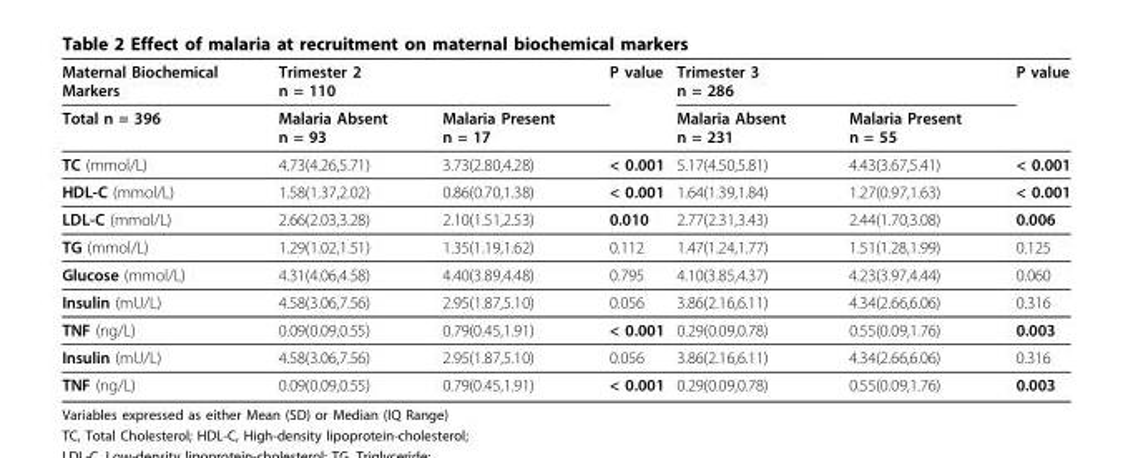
<table><thead><tr><td rowspan="2">Maternal Biochemical Markers Total n = 396</td><td colspan="2">Trimester 2 n = 110</td><td rowspan="2">P value</td><td colspan="2">Trimester 3 n = 286</td><td rowspan="2">P value</td></tr><tr><td>Malaria Absent n = 93</td><td>Malaria Present n = 17</td><td>Malaria Absent n = 231</td><td>Malaria Present n = 55</td></tr></thead><tbody><tr><td>TC (mmol/L)</td><td>4.73(4.26,5.71)</td><td>3.73(2.80,4.28)</td><td>&lt; 0.001</td><td>5.17(4.50,5.81)</td><td>4.43(3.67,5.41)</td><td>&lt; 0.001</td></tr><tr><td>HDL-C (mmol/L)</td><td>1.58(1.37,2.02)</td><td>0.86(0.70,1.38)</td><td>&lt; 0.001</td><td>1.64(1.39,1.84)</td><td>1.27(0.97,1.63)</td><td>&lt; 0.001</td></tr><tr><td>LDL-C (mmol/L)</td><td>2.66(2.03,3.28)</td><td>2.10(1.51,2.53)</td><td>0.010</td><td>2.77(2.31,3.43)</td><td>2.44(1.70,3.08)</td><td>0.006</td></tr><tr><td>TG (mmol/L)</td><td>1.29(1.02,1.51)</td><td>1.35(1.19,1.62)</td><td>0.112</td><td>1.47(1.24,1.77)</td><td>1.51(1.28,1.99)</td><td>0.125</td></tr><tr><td>Glucose (mmol/L)</td><td>4.31(4.06,4.58)</td><td>4.40(3.89,4.48)</td><td>0.795</td><td>4.10(3.85,4.37)</td><td>4.23(3.97,4.44)</td><td>0.060</td></tr><tr><td>Insulin (mU/L)</td><td>4.58(3.06,7.56)</td><td>2.95(1.87,5.10)</td><td>0.056</td><td>3.86(2.16,6.11)</td><td>4.34(2.66,6.06)</td><td>0.316</td></tr><tr><td>TNF (ng/L)</td><td>0.09(0.09,0.55)</td><td>0.79(0.45,1.91)</td><td>&lt; 0.001</td><td>0.29(0.09,0.78)</td><td>0.55(0.09,1.76)</td><td>0.003</td></tr><tr><td>Insulin (mU/L)</td><td>4.58(3.06,7.56)</td><td>2.95(1.87,5.10)</td><td>0.056</td><td>3.86(2.16,6.11)</td><td>4.34(2.66,6.06)</td><td>0.316</td></tr><tr><td>TNF (ng/L)</td><td>0.09(0.09,0.55)</td><td>0.79(0.45,1.91)</td><td>&lt; 0.001</td><td>0.29(0.09,0.78)</td><td>0.55(0.09,1.76)</td><td>0.003</td></tr></tbody></table>